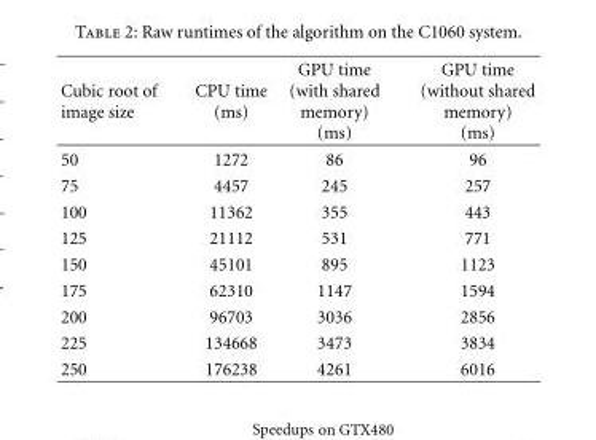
<table><thead><tr><td>Cubic root of image size</td><td>CPU time (ms)</td><td>GPU time (with shared memory) (ms)</td><td>GPU time (without shared memory) (ms)</td></tr></thead><tbody><tr><td>50</td><td>1272</td><td>86</td><td>96</td></tr><tr><td>75</td><td>4457</td><td>245</td><td>257</td></tr><tr><td>100</td><td>11362</td><td>355</td><td>443</td></tr><tr><td>125</td><td>21112</td><td>531</td><td>771</td></tr><tr><td>150</td><td>45101</td><td>895</td><td>1123</td></tr><tr><td>175</td><td>62310</td><td>1147</td><td>1594</td></tr><tr><td>200</td><td>96703</td><td>3036</td><td>2856</td></tr><tr><td>225</td><td>134668</td><td>3473</td><td>3834</td></tr><tr><td>250</td><td>176238</td><td>4261</td><td>6016</td></tr></tbody></table>